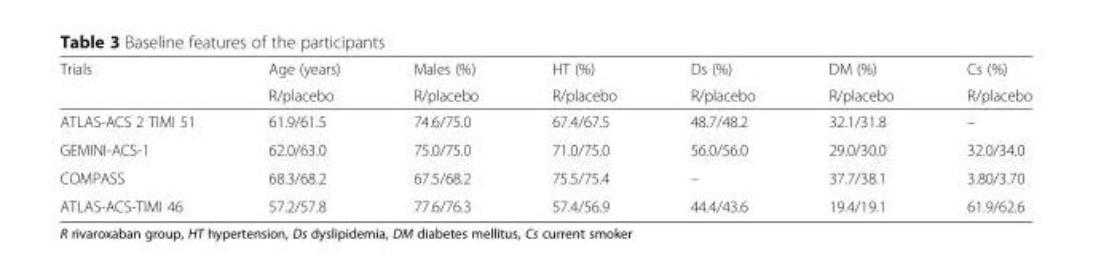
<table><thead><tr><td rowspan="2">Trials</td><td rowspan="2">Age (years) R/placebo</td><td rowspan="2">Males (%) R/placebo</td><td rowspan="2">HT (%) R/placebo</td><td rowspan="2">Ds (%) R/placebo</td><td rowspan="2">DM (%) R/placebo</td><td rowspan="2">Cs (%) R/placebo</td></tr><tr></tr></thead><tbody><tr><td>ATLAS-ACS 2 TIMI 51</td><td>61.9/61.5</td><td>74.6/75.0</td><td>67.4/67.5</td><td>48.7/48.2</td><td>32.1/31.8</td><td>–</td></tr><tr><td>GEMINI-ACS-1</td><td>62.0/63.0</td><td>75.0/75.0</td><td>71.0/75.0</td><td>56.0/56.0</td><td>29.0/30.0</td><td>32.0/34.0</td></tr><tr><td>COMPASS</td><td>68.3/68.2</td><td>67.5/68.2</td><td>75.5/75.4</td><td>–</td><td>37.7/38.1</td><td>3.80/3.70</td></tr><tr><td>ATLAS-ACS-TIMI 46</td><td>57.2/57.8</td><td>77.6/76.3</td><td>57.4/56.9</td><td>44.4/43.6</td><td>19.4/19.1</td><td>61.9/62.6</td></tr></tbody></table>